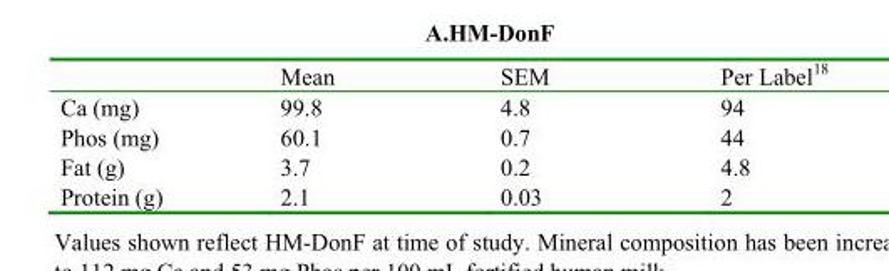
<table><thead><tr><td></td><td>Mean</td><td>SEM</td><td>Per Label<sup>18</sup></td></tr></thead><tbody><tr><td>Ca (mg)</td><td>99.8</td><td>4.8</td><td>94</td></tr><tr><td>Phos (mg)</td><td>60.1</td><td>0.7</td><td>44</td></tr><tr><td>Fat (g)</td><td>3.7</td><td>0.2</td><td>4.8</td></tr><tr><td>Protein (g)</td><td>2.1</td><td>0.03</td><td>2</td></tr></tbody></table>